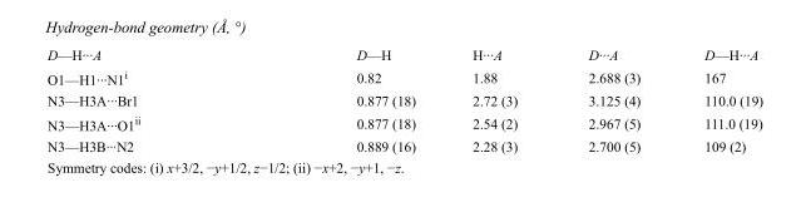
<table><tbody><tr><td>D—H···A</td><td>D—H</td><td>H···A</td><td>D···A</td><td>D—H···A</td></tr><tr><td>O1—H1···N1<sup>i</sup></td><td>0.82</td><td>1.88</td><td>2.688 (3)</td><td>167</td></tr><tr><td>N3—H3A···Br1</td><td>0.877 (18)</td><td>2.72 (3)</td><td>3.125 (4)</td><td>110.0 (19)</td></tr><tr><td>N3—H3A···O1<sup>ii</sup></td><td>0.877 (18)</td><td>2.54 (2)</td><td>2.967 (5)</td><td>111.0 (19)</td></tr><tr><td>N3—H3B···N2</td><td>0.889 (16)</td><td>2.28 (3)</td><td>2.700 (5)</td><td>109 (2)</td></tr></tbody></table>